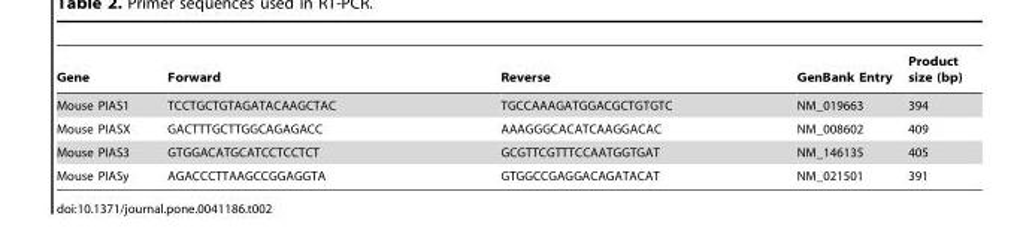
<table><thead><tr><td>Gene</td><td>Forward</td><td>Reverse</td><td>GenBank Entry</td><td>Product size (bp)</td></tr></thead><tbody><tr><td>Mouse PIAS1</td><td>TCCTGCTGTAGATACAAGCTAC</td><td>TGCCAAAGATGGACGCTGTGTC</td><td>NM_019663</td><td>394</td></tr><tr><td>Mouse PIASX</td><td>GACTTTGCTTGGCAGAGACC</td><td>AAAGGGCACATCAAGGACAC</td><td>NM_008602</td><td>409</td></tr><tr><td>Mouse PIAS3</td><td>GTGGACATGCATCCTCCTCT</td><td>GCGTTCGTTTCCAATGGTGAT</td><td>NM_146135</td><td>405</td></tr><tr><td>Mouse PIASy</td><td>AGACCCTTAAGCCGGAGGTA</td><td>GTGGCCGAGGACAGATACAT</td><td>NM_021501</td><td>391</td></tr></tbody></table>